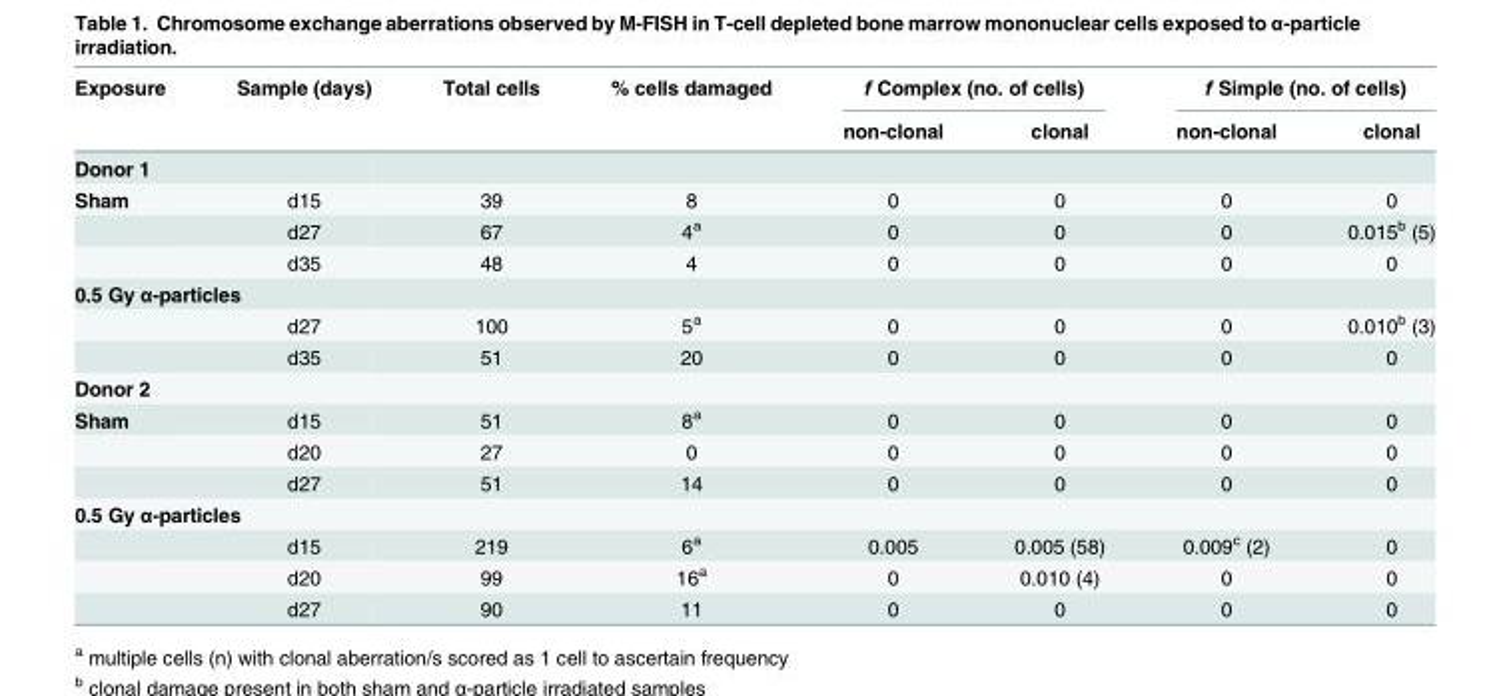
<table><thead><tr><td rowspan="2">Exposure</td><td rowspan="2">Sample (days)</td><td rowspan="2">Total cells</td><td rowspan="2">% cells damaged</td><td colspan="2">f Complex (no. of cells)</td><td colspan="2">f Simple (no. of cells)</td></tr><tr><td>non-clonal</td><td>clonal</td><td>non-clonal</td><td>clonal</td></tr></thead><tbody><tr><td colspan="8">Donor 1</td></tr><tr><td rowspan="3">Sham</td><td>d15</td><td>39</td><td>8</td><td>0</td><td>0</td><td>0</td><td>0</td></tr><tr><td>d27</td><td>67</td><td>4<sup>a</sup></td><td>0</td><td>0</td><td>0</td><td>0.015<sup>b</sup> (5)</td></tr><tr><td>d35</td><td>48</td><td>4</td><td>0</td><td>0</td><td>0</td><td>0</td></tr><tr><td colspan="8">0.5 Gy α-particles</td></tr><tr><td></td><td>d27</td><td>100</td><td>5<sup>a</sup></td><td>0</td><td>0</td><td>0</td><td>0.010<sup>b</sup> (3)</td></tr><tr><td></td><td>d35</td><td>51</td><td>20</td><td>0</td><td>0</td><td>0</td><td>0</td></tr><tr><td colspan="8">Donor 2</td></tr><tr><td rowspan="3">Sham</td><td>d15</td><td>51</td><td>8<sup>a</sup></td><td>0</td><td>0</td><td>0</td><td>0</td></tr><tr><td>d20</td><td>27</td><td>0</td><td>0</td><td>0</td><td>0</td><td>0</td></tr><tr><td>d27</td><td>51</td><td>14</td><td>0</td><td>0</td><td>0</td><td>0</td></tr><tr><td colspan="8">0.5 Gy α-particles</td></tr><tr><td></td><td>d15</td><td>219</td><td>6<sup>a</sup></td><td>0.005</td><td>0.005 (58)</td><td>0.009<sup>c</sup> (2)</td><td>0</td></tr><tr><td></td><td>d20</td><td>99</td><td>16<sup>a</sup></td><td>0</td><td>0.010 (4)</td><td>0</td><td>0</td></tr><tr><td></td><td>d27</td><td>90</td><td>11</td><td>0</td><td>0</td><td>0</td><td>0</td></tr></tbody></table>